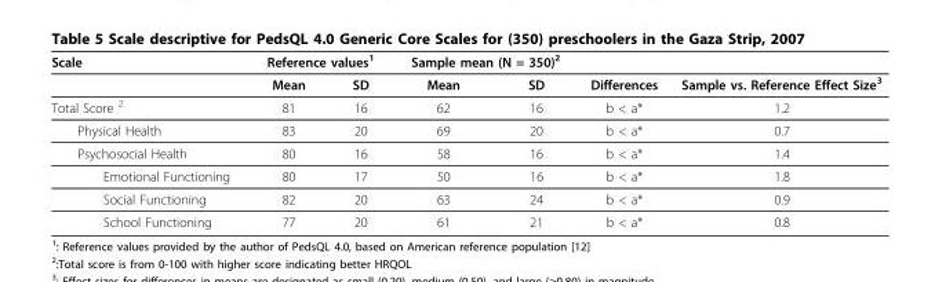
<table><thead><tr><td rowspan="2">Scale</td><td colspan="2">Reference values<sup>1</sup></td><td colspan="2">Sample mean (N = 350)<sup>2</sup></td><td rowspan="2">Differences</td><td rowspan="2">Sample vs. Reference Effect Size<sup>3</sup></td></tr><tr><td>Mean</td><td>SD</td><td>Mean</td><td>SD</td></tr></thead><tbody><tr><td>Total Score <sup>2</sup></td><td>81</td><td>16</td><td>62</td><td>16</td><td>b &lt; a*</td><td>1.2</td></tr><tr><td>Physical Health</td><td>83</td><td>20</td><td>69</td><td>20</td><td>b &lt; a*</td><td>0.7</td></tr><tr><td>Psychosocial Health</td><td>80</td><td>16</td><td>58</td><td>16</td><td>b &lt; a*</td><td>1.4</td></tr><tr><td>Emotional Functioning</td><td>80</td><td>17</td><td>50</td><td>16</td><td>b &lt; a*</td><td>1.8</td></tr><tr><td>Social Functioning</td><td>82</td><td>20</td><td>63</td><td>24</td><td>b &lt; a*</td><td>0.9</td></tr><tr><td>School Functioning</td><td>77</td><td>20</td><td>61</td><td>21</td><td>b &lt; a*</td><td>0.8</td></tr></tbody></table>